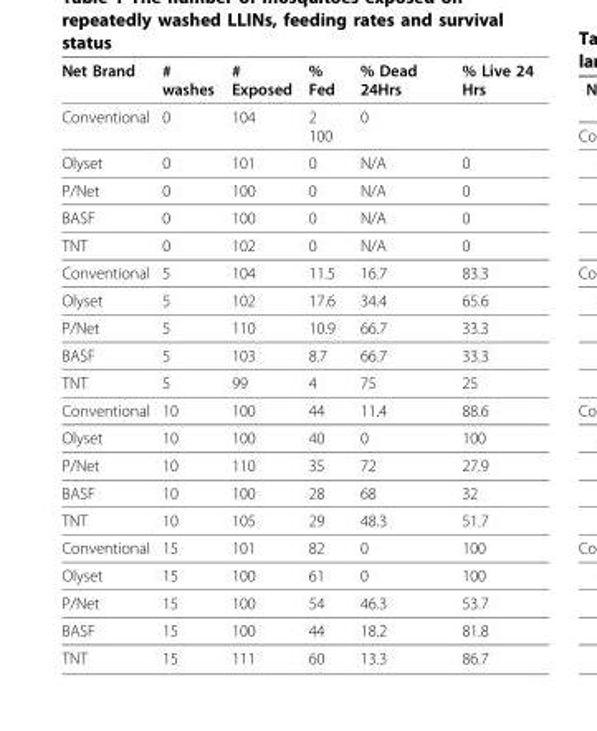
<table><thead><tr><td>Net Brand</td><td># washes</td><td># Exposed</td><td>% Fed</td><td>% Dead 24Hrs</td><td>% Live 24 Hrs</td></tr></thead><tbody><tr><td>Conventional</td><td>0</td><td>104</td><td>2 100</td><td>0</td><td></td></tr><tr><td>Olyset</td><td>0</td><td>101</td><td>0</td><td>N/A</td><td>0</td></tr><tr><td>P/Net</td><td>0</td><td>100</td><td>0</td><td>N/A</td><td>0</td></tr><tr><td>BASF</td><td>0</td><td>100</td><td>0</td><td>N/A</td><td>0</td></tr><tr><td>TNT</td><td>0</td><td>102</td><td>0</td><td>N/A</td><td>0</td></tr><tr><td>Conventional</td><td>5</td><td>104</td><td>11.5</td><td>16.7</td><td>83.3</td></tr><tr><td>Olyset</td><td>5</td><td>102</td><td>17.6</td><td>34.4</td><td>65.6</td></tr><tr><td>P/Net</td><td>5</td><td>110</td><td>10.9</td><td>66.7</td><td>33.3</td></tr><tr><td>BASF</td><td>5</td><td>103</td><td>8.7</td><td>66.7</td><td>33.3</td></tr><tr><td>TNT</td><td>5</td><td>99</td><td>4</td><td>75</td><td>25</td></tr><tr><td>Conventional</td><td>10</td><td>100</td><td>44</td><td>11.4</td><td>88.6</td></tr><tr><td>Olyset</td><td>10</td><td>100</td><td>40</td><td>0</td><td>100</td></tr><tr><td>P/Net</td><td>10</td><td>110</td><td>35</td><td>72</td><td>27.9</td></tr><tr><td>BASF</td><td>10</td><td>100</td><td>28</td><td>68</td><td>32</td></tr><tr><td>TNT</td><td>10</td><td>105</td><td>29</td><td>48.3</td><td>51.7</td></tr><tr><td>Conventional</td><td>15</td><td>101</td><td>82</td><td>0</td><td>100</td></tr><tr><td>Olyset</td><td>15</td><td>100</td><td>61</td><td>0</td><td>100</td></tr><tr><td>P/Net</td><td>15</td><td>100</td><td>54</td><td>46.3</td><td>53.7</td></tr><tr><td>BASF</td><td>15</td><td>100</td><td>44</td><td>18.2</td><td>81.8</td></tr><tr><td>TNT</td><td>15</td><td>111</td><td>60</td><td>13.3</td><td>86.7</td></tr></tbody></table>